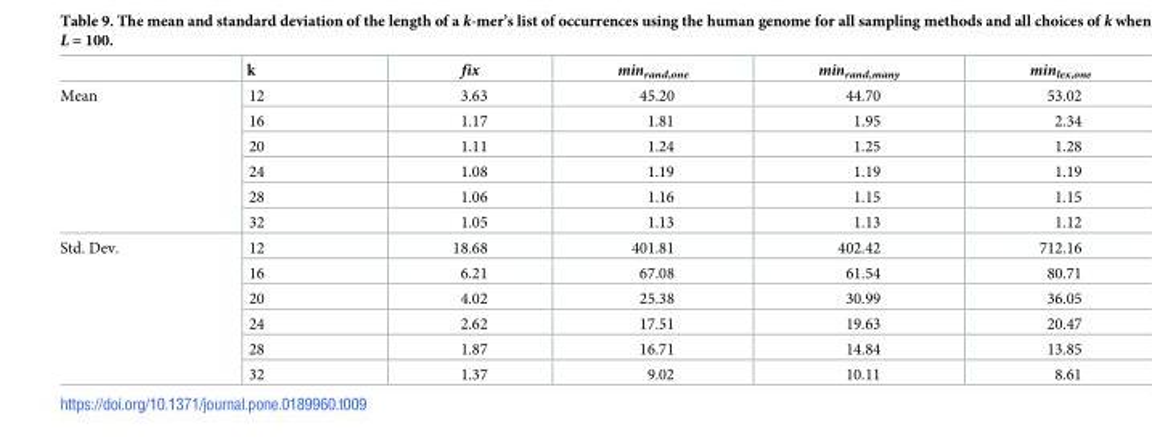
<table><thead><tr><td></td><td>k</td><td>fix</td><td>min<sub>rand,one</sub></td><td>min<sub>rand,many</sub></td><td>min<sub>lex,one</sub></td></tr></thead><tbody><tr><td rowspan="6">Mean</td><td>12</td><td>3.63</td><td>45.20</td><td>44.70</td><td>53.02</td></tr><tr><td>16</td><td>1.17</td><td>1.81</td><td>1.95</td><td>2.34</td></tr><tr><td>20</td><td>1.11</td><td>1.24</td><td>1.25</td><td>1.28</td></tr><tr><td>24</td><td>1.08</td><td>1.19</td><td>1.19</td><td>1.19</td></tr><tr><td>28</td><td>1.06</td><td>1.16</td><td>1.15</td><td>1.15</td></tr><tr><td>32</td><td>1.05</td><td>1.13</td><td>1.13</td><td>1.12</td></tr><tr><td rowspan="6">Std. Dev.</td><td>12</td><td>18.68</td><td>401.81</td><td>402.42</td><td>712.16</td></tr><tr><td>16</td><td>6.21</td><td>67.08</td><td>61.54</td><td>80.71</td></tr><tr><td>20</td><td>4.02</td><td>25.38</td><td>30.99</td><td>36.05</td></tr><tr><td>24</td><td>2.62</td><td>17.51</td><td>19.63</td><td>20.47</td></tr><tr><td>28</td><td>1.87</td><td>16.71</td><td>14.84</td><td>13.85</td></tr><tr><td>32</td><td>1.37</td><td>9.02</td><td>10.11</td><td>8.61</td></tr></tbody></table>